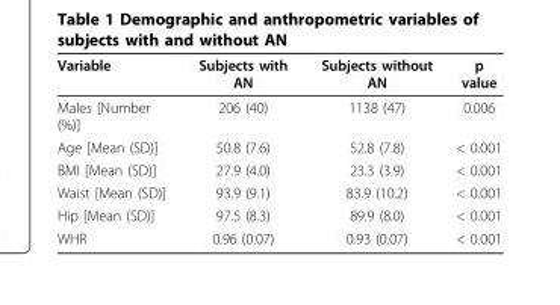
<table><thead><tr><td>Variable</td><td>Subjects with AN</td><td>Subjects without AN</td><td>p value</td></tr></thead><tbody><tr><td>Males [Number (%)]</td><td>206 (40)</td><td>1138 (47)</td><td>0.006</td></tr><tr><td>Age [Mean (SD)]</td><td>50.8 (7.6)</td><td>52.8 (7.8)</td><td>&lt; 0.001</td></tr><tr><td>BMI [Mean (SD)]</td><td>27.9 (4.0)</td><td>23.3 (3.9)</td><td>&lt; 0.001</td></tr><tr><td>Waist [Mean (SD)]</td><td>93.9 (9.1)</td><td>83.9 (10.2)</td><td>&lt; 0.001</td></tr><tr><td>Hip [Mean (SD)]</td><td>97.5 (8.3)</td><td>89.9 (8.0)</td><td>&lt; 0.001</td></tr><tr><td>WHR</td><td>0.96 (0.07)</td><td>0.93 (0.07)</td><td>&lt; 0.001</td></tr></tbody></table>